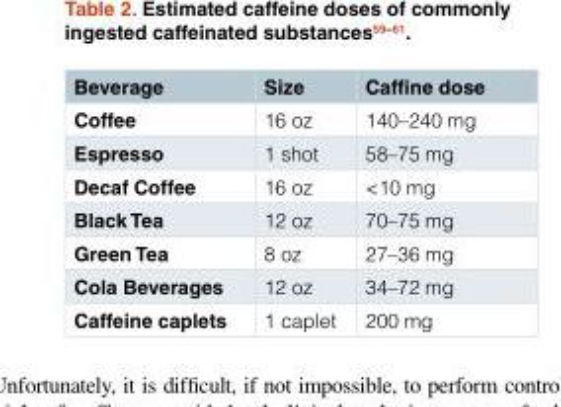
<table><thead><tr><td>Beverage</td><td>Size</td><td>Caffine dose</td></tr></thead><tbody><tr><td>Coffee</td><td>16 oz</td><td>140–240 mg</td></tr><tr><td>Espresso</td><td>1 shot</td><td>58–75 mg</td></tr><tr><td>Decaf Coffee</td><td>16 oz</td><td>&lt;10 mg</td></tr><tr><td>Black Tea</td><td>12 oz</td><td>70–75 mg</td></tr><tr><td>Green Tea</td><td>8 oz</td><td>27–36 mg</td></tr><tr><td>Cola Beverages</td><td>12 oz</td><td>34–72 mg</td></tr><tr><td>Caffeine caplets</td><td>1 caplet</td><td>200 mg</td></tr></tbody></table>